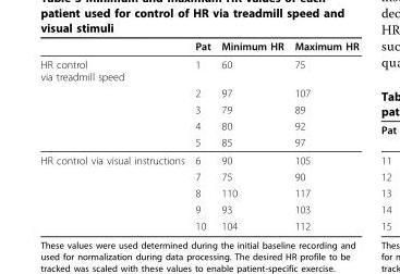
<table><thead><tr><td></td><td>Pat</td><td>Minimum HR</td><td>Maximum HR</td></tr></thead><tbody><tr><td rowspan="5">HR control via treadmill speed</td><td>1</td><td>60</td><td>75</td></tr><tr><td>2</td><td>97</td><td>107</td></tr><tr><td>3</td><td>79</td><td>89</td></tr><tr><td>4</td><td>80</td><td>92</td></tr><tr><td>5</td><td>85</td><td>97</td></tr><tr><td rowspan="5">HR control via visual instructions</td><td>6</td><td>90</td><td>105</td></tr><tr><td>7</td><td>75</td><td>90</td></tr><tr><td>8</td><td>110</td><td>117</td></tr><tr><td>9</td><td>93</td><td>103</td></tr><tr><td>10</td><td>104</td><td>112</td></tr></tbody></table>